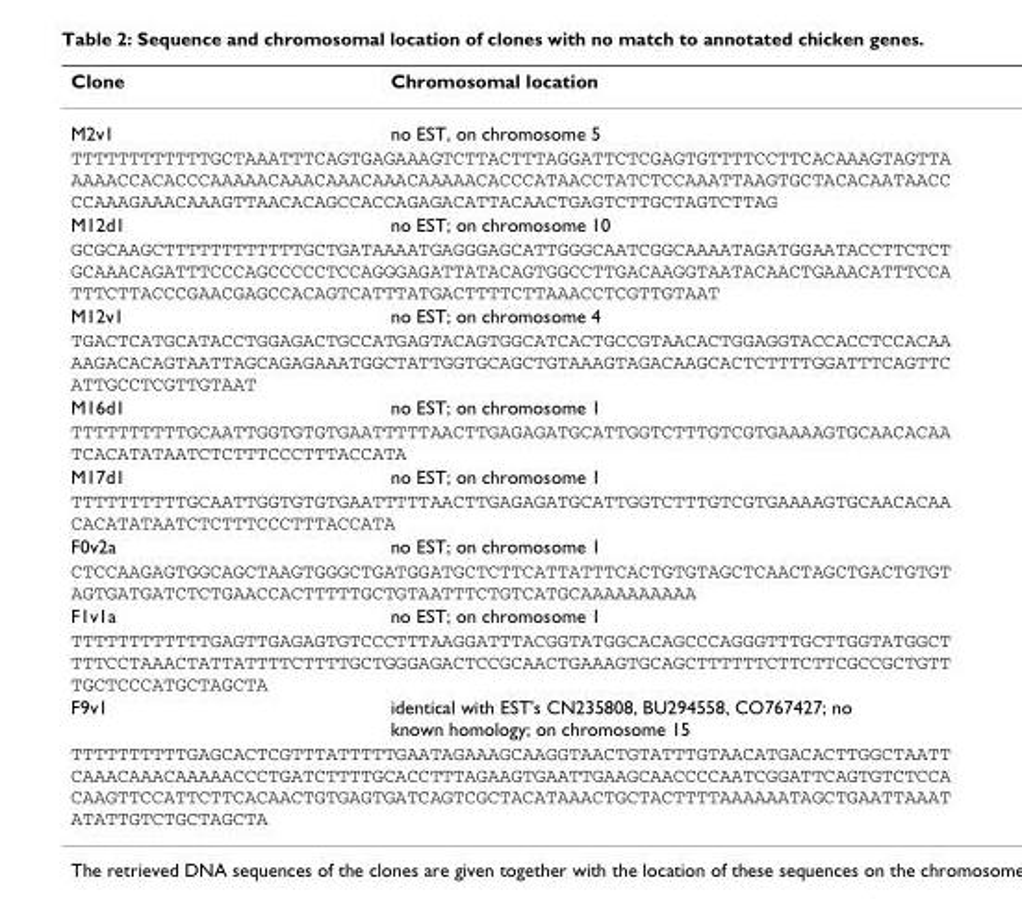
<table><thead><tr><td>Clone</td><td>Chromosomal location</td></tr></thead><tbody><tr><td>M2v1</td><td>no EST, on chromosome 5</td></tr><tr><td colspan="2">TTTTTTTTTTTTGCTAAATTTCAGTGAGAAAGTCTTACTTTAGGATTCTCGAGTGTTTTCCTTCACAAAGTAGTTA AAAACCACACCCAAAAACAAACAAACAAACAAAAACACCCATAACCTATCTCCAAATTAAGTGCTACACAATAACC CCAAAGAAACAAAGTTAACACAGCCACCAGAGACATTACAACTGAGTCTTGCTAGTCTTAG</td></tr><tr><td>M12d1</td><td>no EST; on chromosome 10</td></tr><tr><td colspan="2">GCGCAAGCTTTTTTTTTTTTGCTGATAAAATGAGGGAGCATTGGGCAATCGGCAAAATAGATGGAATACCTTCTCT GCAAACAGATTTCCCAGCCCCCTCCAGGGAGATTATACAGTGGCCTTGACAAGGTAATACAACTGAAACATTTCCA TTTCTTACCCGAACGAGCCACAGTCATTTATGACTTTTCTTAAACCTCGTTGTAAT</td></tr><tr><td>M12v1</td><td>no EST; on chromosome 4</td></tr><tr><td colspan="2">TGACTCATGCATACCTGGAGACTGCCATGAGTACAGTGGCATCACTGCCGTAACACTGGAGGTACCACCTCCACAA AAGACACAGTAATTAGCAGAGAAATGGCTATTGGTGCAGCTGTAAAGTAGACAAGCACTCTTTTGGATTTCAGTTC ATTGCCTCGTTGTAAT</td></tr><tr><td>M16d1</td><td>no EST; on chromosome 1</td></tr><tr><td colspan="2">TTTTTTTTTTGCAATTGGTGTGTGAATTTTTAACTTGAGAGATGCATTGGTCTTTGTCGTGAAAAGTGCAACACAA TCACATATAATCTCTTTCCCTTTACCATA</td></tr><tr><td>M17d1</td><td>no EST; on chromosome 1</td></tr><tr><td colspan="2">TTTTTTTTTTGCAATTGGTGTGTGAATTTTTAACTTGAGAGATGCATTGGTCTTTGTCGTGAAAAGTGCAACACAA CACATATAATCTCTTTCCCTTTACCATA</td></tr><tr><td>F0v2a</td><td>no EST; on chromosome 1</td></tr><tr><td colspan="2">CTCCAAGAGTGGCAGCTAAGTGGGCTGATGGATGCTCTTCATTATTTCACTGTGTAGCTCAACTAGCTGACTGTGT AGTGATGATCTCTGAACCACTTTTTGCTGTAATTTCTGTCATGCAAAAAAAAAA</td></tr><tr><td>F1v1a</td><td>no EST; on chromosome 1</td></tr><tr><td colspan="2">TTTTTTTTTTTTGAGTTGAGAGTGTCCCTTTAAGGATTTACGGTATGGCACAGCCCAGGGTTTGCTTGGTATGGCT TTTCCTAAACTATTATTTTCTTTTGCTGGGAGACTCCGCAACTGAAAGTGCAGCTTTTTTCTTCTTCGCCGCTGTT TGCTCCCATGCTAGCTA</td></tr><tr><td>F9v1</td><td>identical with EST&#x27;s CN235808, BU294558, CO767427; no known homology; on chromosome 15</td></tr><tr><td colspan="2">TTTTTTTTTTGAGCACTCGTTTATTTTTGAATAGAAAGCAAGGTAACTGTATTTGTAACATGACACTTGGCTAATT CAAACAAACAAAAACCCTGATCTTTTGCACCTTTAGAAGTGAATTGAAGCAACCCCAATCGGATTCAGTGTCTCCA CAAGTTCCATTCTTCACAACTGTGAGTGATCAGTCGCTACATAAACTGCTACTTTTAAAAAATAGCTGAATTAAAT ATATTGTCTGCTAGCTA</td></tr></tbody></table>